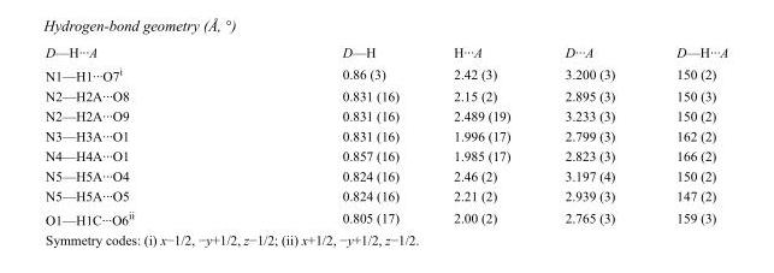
<table><tbody><tr><td>D—H···A</td><td>D—H</td><td>H···A</td><td>D···A</td><td>D—H···A</td></tr><tr><td>N1—H1···O7<sup>i</sup></td><td>0.86 (3)</td><td>2.42 (3)</td><td>3.200 (3)</td><td>150 (2)</td></tr><tr><td>N2—H2A···O8</td><td>0.831 (16)</td><td>2.15 (2)</td><td>2.895 (3)</td><td>150 (3)</td></tr><tr><td>N2—H2A···O9</td><td>0.831 (16)</td><td>2.489 (19)</td><td>3.233 (3)</td><td>150 (2)</td></tr><tr><td>N3—H3A···O1</td><td>0.831 (16)</td><td>1.996 (17)</td><td>2.799 (3)</td><td>162 (2)</td></tr><tr><td>N4—H4A···O1</td><td>0.857 (16)</td><td>1.985 (17)</td><td>2.823 (3)</td><td>166 (2)</td></tr><tr><td>N5—H5A···O4</td><td>0.824 (16)</td><td>2.46 (2)</td><td>3.197 (4)</td><td>150 (2)</td></tr><tr><td>N5—H5A···O5</td><td>0.824 (16)</td><td>2.21 (2)</td><td>2.939 (3)</td><td>147 (2)</td></tr><tr><td>O1—H1C···O6<sup>ii</sup></td><td>0.805 (17)</td><td>2.00 (2)</td><td>2.765 (3)</td><td>159 (3)</td></tr></tbody></table>